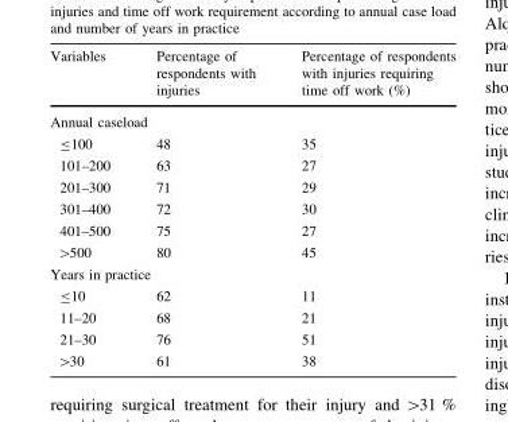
<table><thead><tr><td>Variables</td><td>Percentage of respondents with injuries</td><td>Percentage of respondents with injuries requiring time off work (%)</td></tr></thead><tbody><tr><td colspan="3">Annual caseload</td></tr><tr><td>≤100</td><td>48</td><td>35</td></tr><tr><td>101–200</td><td>63</td><td>27</td></tr><tr><td>201–300</td><td>71</td><td>29</td></tr><tr><td>301–400</td><td>72</td><td>30</td></tr><tr><td>401–500</td><td>75</td><td>27</td></tr><tr><td>&gt;500</td><td>80</td><td>45</td></tr><tr><td colspan="3">Years in practice</td></tr><tr><td>≤10</td><td>62</td><td>11</td></tr><tr><td>11–20</td><td>68</td><td>21</td></tr><tr><td>21–30</td><td>76</td><td>51</td></tr><tr><td>&gt;30</td><td>61</td><td>38</td></tr></tbody></table>